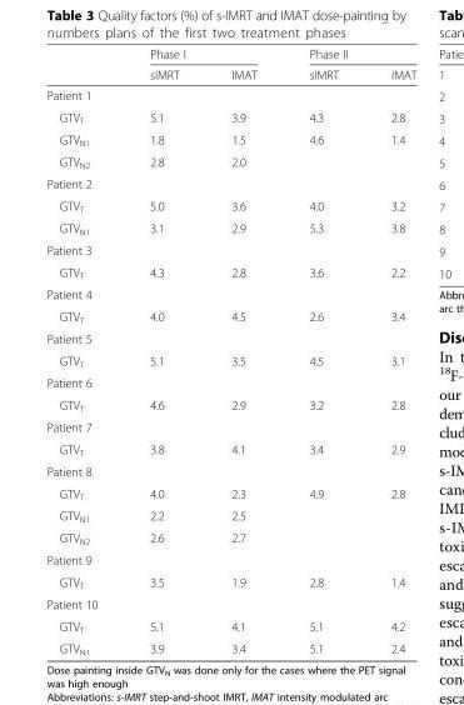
<table><thead><tr><td rowspan="2"></td><td colspan="2">Phase I</td><td colspan="2">Phase II</td></tr><tr><td>sIMRT</td><td>IMAT</td><td>sIMRT</td><td>IMAT</td></tr></thead><tbody><tr><td colspan="5">Patient 1</td></tr><tr><td>GTV<sub>T</sub></td><td>5.1</td><td>3.9</td><td>4.3</td><td>2.8</td></tr><tr><td>GTV<sub>N1</sub></td><td>1.8</td><td>1.5</td><td>4.6</td><td>1.4</td></tr><tr><td>GTV<sub>N2</sub></td><td>2.8</td><td>2.0</td><td></td><td></td></tr><tr><td colspan="5">Patient 2</td></tr><tr><td>GTV<sub>T</sub></td><td>5.0</td><td>3.6</td><td>4.0</td><td>3.2</td></tr><tr><td>GTV<sub>N1</sub></td><td>3.1</td><td>2.9</td><td>5.3</td><td>3.8</td></tr><tr><td colspan="5">Patient 3</td></tr><tr><td>GTV<sub>T</sub></td><td>4.3</td><td>2.8</td><td>3.6</td><td>2.2</td></tr><tr><td colspan="5">Patient 4</td></tr><tr><td>GTV<sub>T</sub></td><td>4.0</td><td>4.5</td><td>2.6</td><td>3.4</td></tr><tr><td colspan="5">Patient 5</td></tr><tr><td>GTV<sub>T</sub></td><td>5.1</td><td>3.5</td><td>4.5</td><td>3.1</td></tr><tr><td colspan="5">Patient 6</td></tr><tr><td>GTV<sub>T</sub></td><td>4.6</td><td>2.9</td><td>3.2</td><td>2.8</td></tr><tr><td colspan="5">Patient 7</td></tr><tr><td>GTV<sub>T</sub></td><td>3.8</td><td>4.1</td><td>3.4</td><td>2.9</td></tr><tr><td colspan="5">Patient 8</td></tr><tr><td>GTV<sub>T</sub></td><td>4.0</td><td>2.3</td><td>4.9</td><td>2.8</td></tr><tr><td>GTV<sub>N1</sub></td><td>2.2</td><td>2.5</td><td></td><td></td></tr><tr><td>GTV<sub>N2</sub></td><td>2.6</td><td>2.7</td><td></td><td></td></tr><tr><td colspan="5">Patient 9</td></tr><tr><td>GTV<sub>T</sub></td><td>3.5</td><td>1.9</td><td>2.8</td><td>1.4</td></tr><tr><td colspan="5">Patient 10</td></tr><tr><td>GTV<sub>T</sub></td><td>5.1</td><td>4.1</td><td>5.1</td><td>4.2</td></tr><tr><td>GTV<sub>N1</sub></td><td>3.9</td><td>3.4</td><td>5.1</td><td>2.4</td></tr></tbody></table>